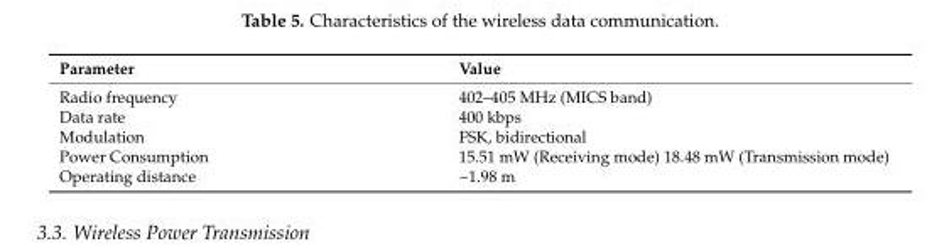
<table><thead><tr><td>Parameter</td><td>Value</td></tr></thead><tbody><tr><td>Radio frequency</td><td>402–405 MHz (MICS band)</td></tr><tr><td>Data rate</td><td>400 kbps</td></tr><tr><td>Modulation</td><td>FSK, bidirectional</td></tr><tr><td>Power Consumption</td><td>15.51 mW (Receiving mode) 18.48 mW (Transmission mode)</td></tr><tr><td>Operating distance</td><td>~1.98 m</td></tr></tbody></table>